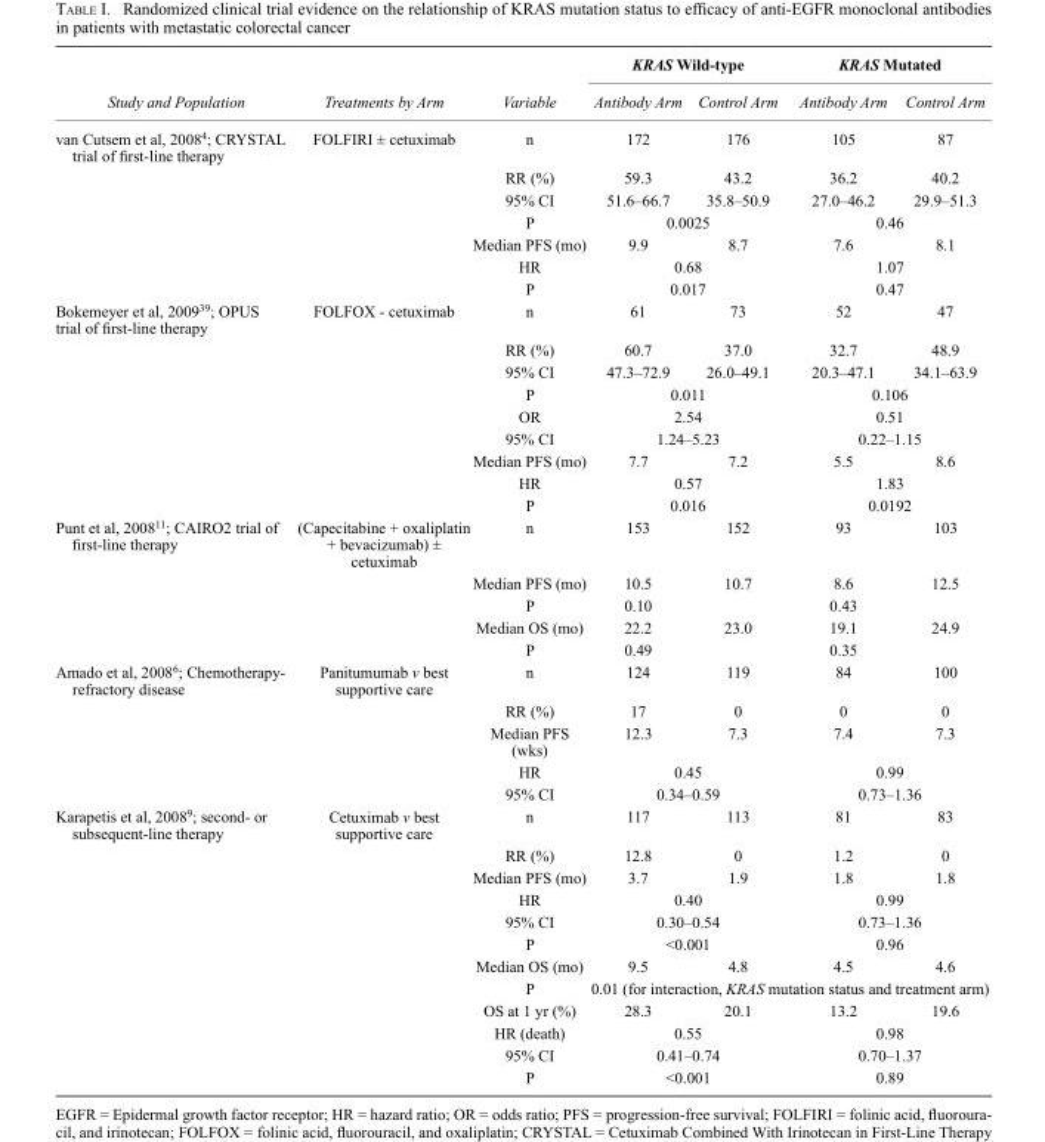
<table><thead><tr><td rowspan="2">Study and Population</td><td rowspan="2">Treatments by Arm</td><td rowspan="2">Variable</td><td colspan="2">KRAS Wild-type</td><td colspan="2">KRAS Mutated</td></tr><tr><td>Antibody Arm</td><td>Control Arm</td><td>Antibody Arm</td><td>Control Arm</td></tr></thead><tbody><tr><td rowspan="7">van Cutsem et al, 2008<sup>4</sup>; CRYSTAL trial of first-line therapy</td><td>FOLFIRI ± cetuximab</td><td>n</td><td>172</td><td>176</td><td>105</td><td>87</td></tr><tr><td></td><td>RR (%)</td><td>59.3</td><td>43.2</td><td>36.2</td><td>40.2</td></tr><tr><td></td><td>95% CI</td><td>51.6–66.7</td><td>35.8–50.9</td><td>27.0–46.2</td><td>29.9–51.3</td></tr><tr><td></td><td>P</td><td colspan="2">0.0025</td><td colspan="2">0.46</td></tr><tr><td></td><td>Median PFS (mo)</td><td>9.9</td><td>8.7</td><td>7.6</td><td>8.1</td></tr><tr><td></td><td>HR</td><td colspan="2">0.68</td><td colspan="2">1.07</td></tr><tr><td></td><td>P</td><td colspan="2">0.017</td><td colspan="2">0.47</td></tr><tr><td rowspan="9">Bokemeyer et al, 2009<sup>39</sup>; OPUS trial of first-line therapy</td><td>FOLFOX - cetuximab</td><td>n</td><td>61</td><td>73</td><td>52</td><td>47</td></tr><tr><td></td><td>RR (%)</td><td>60.7</td><td>37.0</td><td>32.7</td><td>48.9</td></tr><tr><td></td><td>95% CI</td><td>47.3–72.9</td><td>26.0–49.1</td><td>20.3–47.1</td><td>34.1–63.9</td></tr><tr><td></td><td>P</td><td colspan="2">0.011</td><td colspan="2">0.106</td></tr><tr><td></td><td>OR</td><td colspan="2">2.54</td><td colspan="2">0.51</td></tr><tr><td></td><td>95% CI</td><td colspan="2">1.24–5.23</td><td colspan="2">0.22–1.15</td></tr><tr><td></td><td>Median PFS (mo)</td><td>7.7</td><td>7.2</td><td>5.5</td><td>8.6</td></tr><tr><td></td><td>HR</td><td colspan="2">0.57</td><td colspan="2">1.83</td></tr><tr><td></td><td>P</td><td colspan="2">0.016</td><td colspan="2">0.0192</td></tr><tr><td rowspan="5">Punt et al, 2008<sup>11</sup>; CAIRO2 trial of first-line therapy</td><td>(Capecitabine + oxaliplatin + bevacizumab) ± cetuximab</td><td>n</td><td>153</td><td>152</td><td>93</td><td>103</td></tr><tr><td></td><td>Median PFS (mo)</td><td>10.5</td><td>10.7</td><td>8.6</td><td>12.5</td></tr><tr><td></td><td>P</td><td>0.10</td><td></td><td>0.43</td><td></td></tr><tr><td></td><td>Median OS (mo)</td><td>22.2</td><td>23.0</td><td>19.1</td><td>24.9</td></tr><tr><td></td><td>P</td><td>0.49</td><td></td><td>0.35</td><td></td></tr><tr><td rowspan="5">Amado et al, 2008<sup>6</sup>; Chemotherapy- refractory disease</td><td>Panitumumab v best supportive care</td><td>n</td><td>124</td><td>119</td><td>84</td><td>100</td></tr><tr><td></td><td>RR (%)</td><td>17</td><td>0</td><td>0</td><td>0</td></tr><tr><td></td><td>Median PFS (wks)</td><td>12.3</td><td>7.3</td><td>7.4</td><td>7.3</td></tr><tr><td></td><td>HR</td><td colspan="2">0.45</td><td colspan="2">0.99</td></tr><tr><td></td><td>95% CI</td><td colspan="2">0.34–0.59</td><td colspan="2">0.73–1.36</td></tr><tr><td rowspan="12">Karapetis et al, 2008<sup>9</sup>; second- or subsequent-line therapy</td><td>Cetuximab v best supportive care</td><td>n</td><td>117</td><td>113</td><td>81</td><td>83</td></tr><tr><td></td><td>RR (%)</td><td>12.8</td><td>0</td><td>1.2</td><td>0</td></tr><tr><td></td><td>Median PFS (mo)</td><td>3.7</td><td>1.9</td><td>1.8</td><td>1.8</td></tr><tr><td></td><td>HR</td><td colspan="2">0.40</td><td colspan="2">0.99</td></tr><tr><td></td><td>95% CI</td><td colspan="2">0.30–0.54</td><td colspan="2">0.73–1.36</td></tr><tr><td></td><td>P</td><td colspan="2">&lt;0.001</td><td colspan="2">0.96</td></tr><tr><td></td><td>Median OS (mo)</td><td>9.5</td><td>4.8</td><td>4.5</td><td>4.6</td></tr><tr><td></td><td>P</td><td colspan="4">0.01 (for interaction, KRAS mutation status and treatment arm)</td></tr><tr><td></td><td>OS at 1 yr (%)</td><td>28.3</td><td>20.1</td><td>13.2</td><td>19.6</td></tr><tr><td></td><td>HR (death)</td><td colspan="2">0.55</td><td colspan="2">0.98</td></tr><tr><td></td><td>95% CI</td><td colspan="2">0.41–0.74</td><td colspan="2">0.70–1.37</td></tr><tr><td></td><td>P</td><td colspan="2">&lt;0.001</td><td colspan="2">0.89</td></tr></tbody></table>